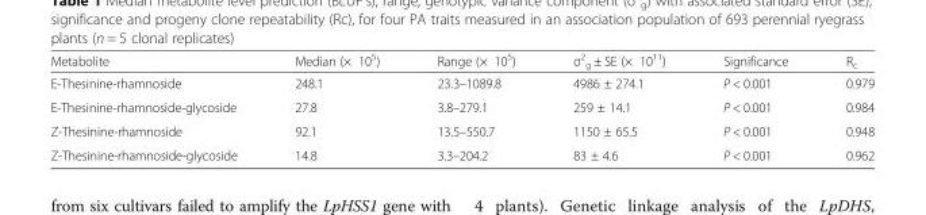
<table><thead><tr><td>Metabolite</td><td>Median (× 10<sup>5</sup>)</td><td>Range (× 10<sup>5</sup>)</td><td>σ<sup>2</sup> <sub>g</sub> ± SE (× 10<sup>11</sup>)</td><td>Significance</td><td>R<sub>c</sub></td></tr></thead><tbody><tr><td>E-Thesinine-rhamnoside</td><td>248.1</td><td>23.3–1089.8</td><td>4986 ± 274.1</td><td>P &lt; 0.001</td><td>0.979</td></tr><tr><td>E-Thesinine-rhamnoside-glycoside</td><td>27.8</td><td>3.8–279.1</td><td>259 ± 14.1</td><td>P &lt; 0.001</td><td>0.984</td></tr><tr><td>Z-Thesinine-rhamnoside</td><td>92.1</td><td>13.5–550.7</td><td>1150 ± 65.5</td><td>P &lt; 0.001</td><td>0.948</td></tr><tr><td>Z-Thesinine-rhamnoside-glycoside</td><td>14.8</td><td>3.3–204.2</td><td>83 ± 4.6</td><td>P &lt; 0.001</td><td>0.962</td></tr></tbody></table>